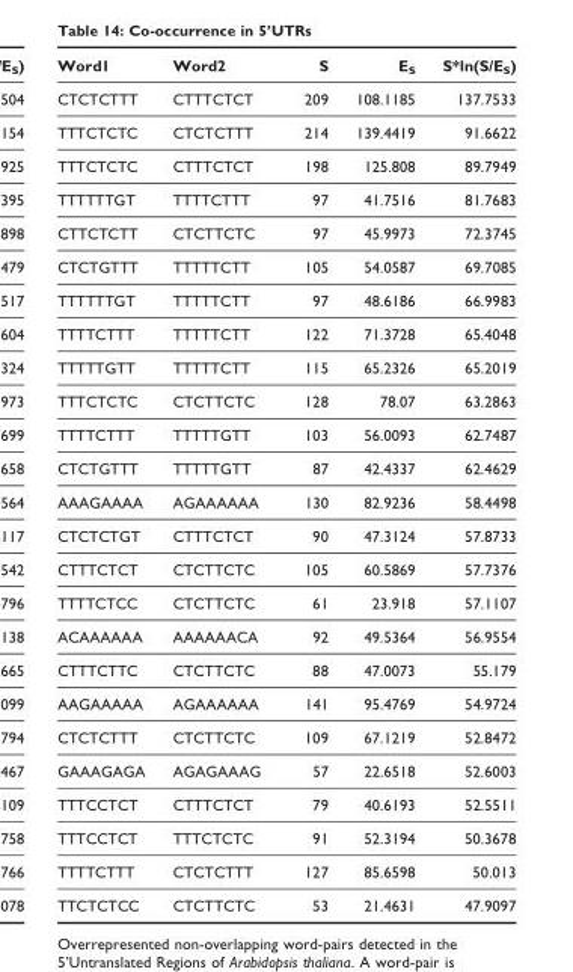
<table><thead><tr><td>Word1</td><td>Word2</td><td>S</td><td>E<sub>S</sub></td><td>S*ln(S/E<sub>S</sub>)</td></tr></thead><tbody><tr><td>CTCTCTTT</td><td>CTTTCTCT</td><td>209</td><td>108.1185</td><td>137.7533</td></tr><tr><td>TTTCTCTC</td><td>CTCTCTTT</td><td>214</td><td>139.4419</td><td>91.6622</td></tr><tr><td>TTTCTCTC</td><td>CTTTCTCT</td><td>198</td><td>125.808</td><td>89.7949</td></tr><tr><td>TTTTTTGT</td><td>TTTTCTTT</td><td>97</td><td>41.7516</td><td>81.7683</td></tr><tr><td>CTTCTCTT</td><td>CTCTTCTC</td><td>97</td><td>45.9973</td><td>72.3745</td></tr><tr><td>CTCTGTTT</td><td>TTTTTCTT</td><td>105</td><td>54.0587</td><td>69.7085</td></tr><tr><td>TTTTTTGT</td><td>TTTTTCTT</td><td>97</td><td>48.6186</td><td>66.9983</td></tr><tr><td>TTTTCTTT</td><td>TTTTTCTT</td><td>122</td><td>71.3728</td><td>65.4048</td></tr><tr><td>TTTTTGTT</td><td>TTTTTCTT</td><td>115</td><td>65.2326</td><td>65.2019</td></tr><tr><td>TTTCTCTC</td><td>CTCTTCTC</td><td>128</td><td>78.07</td><td>63.2863</td></tr><tr><td>TTTTCTTT</td><td>TTTTTGTT</td><td>103</td><td>56.0093</td><td>62.7487</td></tr><tr><td>CTCTGTTT</td><td>TTTTTGTT</td><td>87</td><td>42.4337</td><td>62.4629</td></tr><tr><td>AAAGAAAA</td><td>AGAAAAAA</td><td>130</td><td>82.9236</td><td>58.4498</td></tr><tr><td>CTCTCTGT</td><td>CTTTCTCT</td><td>90</td><td>47.3124</td><td>57.8733</td></tr><tr><td>CTTTCTCT</td><td>CTCTTCTC</td><td>105</td><td>60.5869</td><td>57.7376</td></tr><tr><td>TTTTCTCC</td><td>CTCTTCTC</td><td>61</td><td>23.918</td><td>57.1107</td></tr><tr><td>ACAAAAAA</td><td>AAAAAACA</td><td>92</td><td>49.5364</td><td>56.9554</td></tr><tr><td>CTTTCTTC</td><td>CTCTTCTC</td><td>88</td><td>47.0073</td><td>55.179</td></tr><tr><td>AAGAAAAA</td><td>AGAAAAAA</td><td>141</td><td>95.4769</td><td>54.9724</td></tr><tr><td>CTCTCTTT</td><td>CTCTTCTC</td><td>109</td><td>67.1219</td><td>52.8472</td></tr><tr><td>GAAAGAGA</td><td>AGAGAAAG</td><td>57</td><td>22.6518</td><td>52.6003</td></tr><tr><td>TTTCCTCT</td><td>CTTTCTCT</td><td>79</td><td>40.6193</td><td>52.5511</td></tr><tr><td>TTTCCTCT</td><td>TTTCTCTC</td><td>91</td><td>52.3194</td><td>50.3678</td></tr><tr><td>TTTTCTTT</td><td>CTCTCTTT</td><td>127</td><td>85.6598</td><td>50.013</td></tr><tr><td>TTCTCTCC</td><td>CTCTTCTC</td><td>53</td><td>21.4631</td><td>47.9097</td></tr></tbody></table>